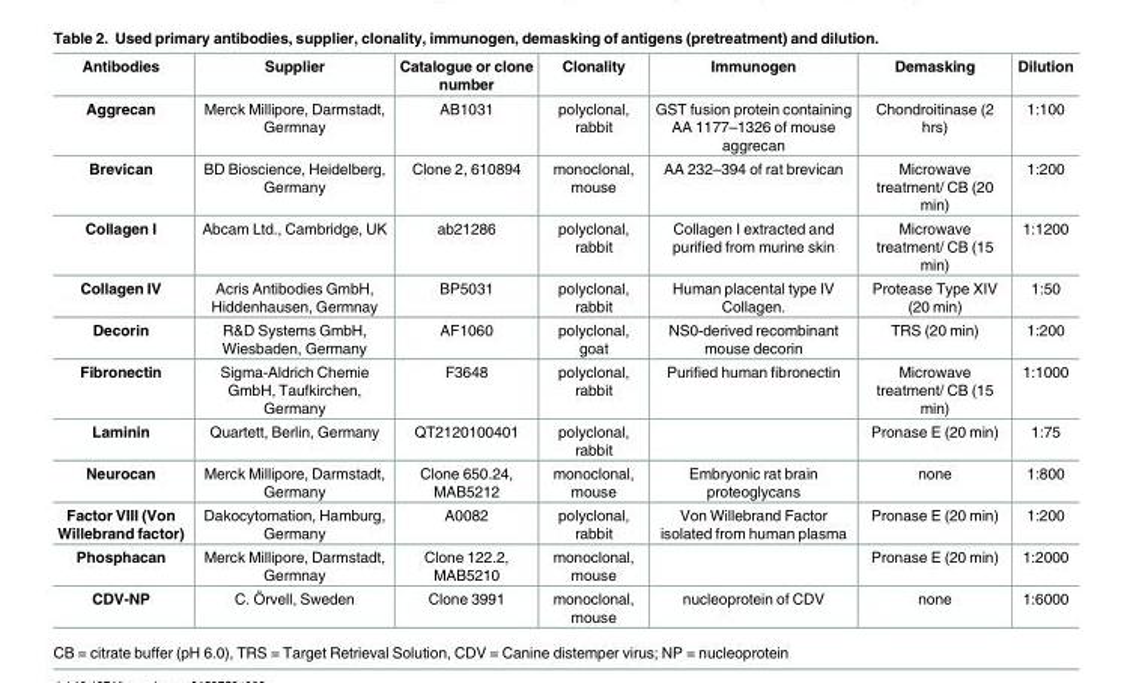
<table><thead><tr><td>Antibodies</td><td>Supplier</td><td>Catalogue or clone number</td><td>Clonality</td><td>Immunogen</td><td>Demasking</td><td>Dilution</td></tr></thead><tbody><tr><td>Aggrecan</td><td>Merck Millipore, Darmstadt, Germnay</td><td>AB1031</td><td>polyclonal, rabbit</td><td>GST fusion protein containing AA 1177–1326 of mouse aggrecan</td><td>Chondroitinase (2 hrs)</td><td>1:100</td></tr><tr><td>Brevican</td><td>BD Bioscience, Heidelberg, Germany</td><td>Clone 2, 610894</td><td>monoclonal, mouse</td><td>AA 232–394 of rat brevican</td><td>Microwave treatment/ CB (20 min)</td><td>1:200</td></tr><tr><td>Collagen I</td><td>Abcam Ltd., Cambridge, UK</td><td>ab21286</td><td>polyclonal, rabbit</td><td>Collagen I extracted and purified from murine skin</td><td>Microwave treatment/ CB (15 min)</td><td>1:1200</td></tr><tr><td>Collagen IV</td><td>Acris Antibodies GmbH, Hiddenhausen, Germnay</td><td>BP5031</td><td>polyclonal, rabbit</td><td>Human placental type IV Collagen.</td><td>Protease Type XIV (20 min)</td><td>1:50</td></tr><tr><td>Decorin</td><td>R&amp;D Systems GmbH, Wiesbaden, Germany</td><td>AF1060</td><td>polyclonal, goat</td><td>NS0-derived recombinant mouse decorin</td><td>TRS (20 min)</td><td>1:200</td></tr><tr><td>Fibronectin</td><td>Sigma-Aldrich Chemie GmbH, Taufkirchen, Germany</td><td>F3648</td><td>polyclonal, rabbit</td><td>Purified human fibronectin</td><td>Microwave treatment/ CB (15 min)</td><td>1:1000</td></tr><tr><td>Laminin</td><td>Quartett, Berlin, Germany</td><td>QT2120100401</td><td>polyclonal, rabbit</td><td></td><td>Pronase E (20 min)</td><td>1:75</td></tr><tr><td>Neurocan</td><td>Merck Millipore, Darmstadt, Germany</td><td>Clone 650.24, MAB5212</td><td>monoclonal, mouse</td><td>Embryonic rat brain proteoglycans</td><td>none</td><td>1:800</td></tr><tr><td>Factor VIII (Von Willebrand factor)</td><td>Dakocytomation, Hamburg, Germany</td><td>A0082</td><td>polyclonal, rabbit</td><td>Von Willebrand Factor isolated from human plasma</td><td>Pronase E (20 min)</td><td>1:200</td></tr><tr><td>Phosphacan</td><td>Merck Millipore, Darmstadt, Germnay</td><td>Clone 122.2, MAB5210</td><td>monoclonal, mouse</td><td></td><td>Pronase E (20 min)</td><td>1:2000</td></tr><tr><td>CDV-NP</td><td>C. Örvell, Sweden</td><td>Clone 3991</td><td>monoclonal, mouse</td><td>nucleoprotein of CDV</td><td>none</td><td>1:6000</td></tr></tbody></table>